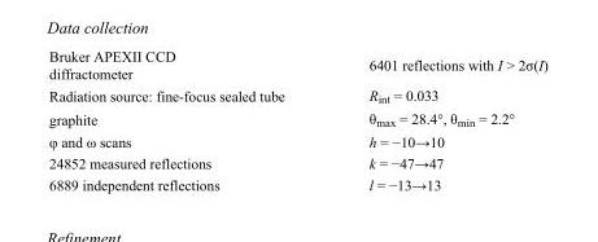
<table><tbody><tr><td>Bruker APEXII CCD diffractometer</td><td>6401 reflections with I &gt; 2σ(I)</td></tr><tr><td>Radiation source: fine-focus sealed tube</td><td>R<sub>int</sub> = 0.033</td></tr><tr><td>graphite</td><td>θ<sub>max</sub> = 28.4°, θ<sub>min</sub> = 2.2°</td></tr><tr><td>φ and ω scans</td><td>h = −10→10</td></tr><tr><td>24852 measured reflections</td><td>k = −47→47</td></tr><tr><td>6889 independent reflections</td><td>l = −13→13</td></tr></tbody></table>